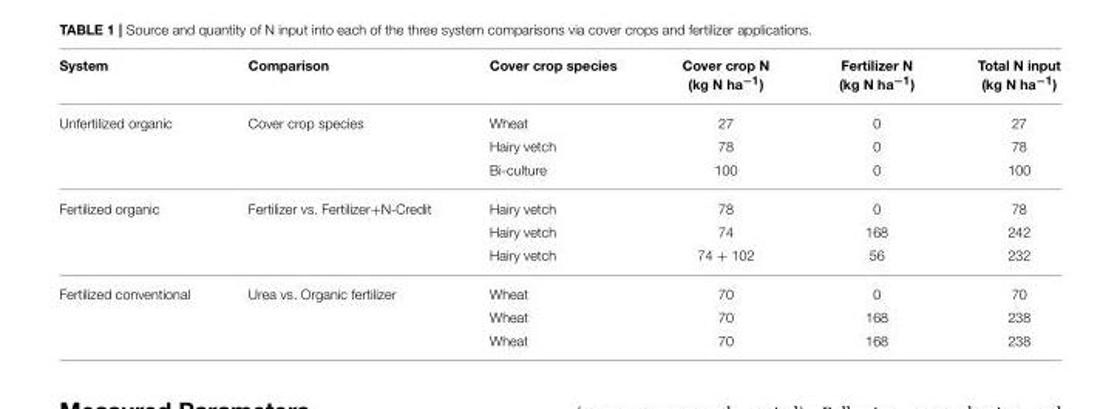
<table><thead><tr><td>System</td><td>Comparison</td><td>Cover crop species</td><td>Cover crop N (kg N ha<sup>−1</sup>)</td><td>Fertilizer N (kg N ha<sup>−1</sup>)</td><td>Total N input (kg N ha<sup>−1</sup>)</td></tr></thead><tbody><tr><td rowspan="3">Unfertilized organic</td><td>Cover crop species</td><td>Wheat</td><td>27</td><td>0</td><td>27</td></tr><tr><td></td><td>Hairy vetch</td><td>78</td><td>0</td><td>78</td></tr><tr><td></td><td>Bi-culture</td><td>100</td><td>0</td><td>100</td></tr><tr><td rowspan="3">Fertilized organic</td><td>Fertilizer vs. Fertilizer+N-Credit</td><td>Hairy vetch</td><td>78</td><td>0</td><td>78</td></tr><tr><td></td><td>Hairy vetch</td><td>74</td><td>168</td><td>242</td></tr><tr><td></td><td>Hairy vetch</td><td>74 + 102</td><td>56</td><td>232</td></tr><tr><td rowspan="3">Fertilized conventional</td><td>Urea vs. Organic fertilizer</td><td>Wheat</td><td>70</td><td>0</td><td>70</td></tr><tr><td></td><td>Wheat</td><td>70</td><td>168</td><td>238</td></tr><tr><td></td><td>Wheat</td><td>70</td><td>168</td><td>238</td></tr></tbody></table>